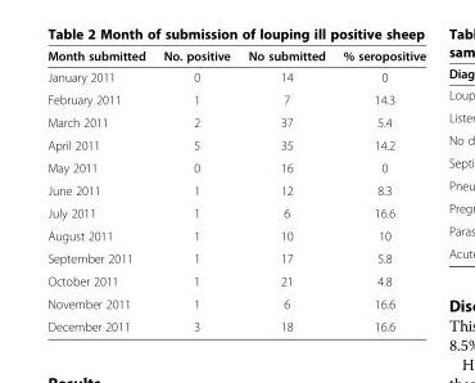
<table><thead><tr><td>Month submitted</td><td>No. positive</td><td>No submitted</td><td>% seropositive</td></tr></thead><tbody><tr><td>January 2011</td><td>0</td><td>14</td><td>0</td></tr><tr><td>February 2011</td><td>1</td><td>7</td><td>14.3</td></tr><tr><td>March 2011</td><td>2</td><td>37</td><td>5.4</td></tr><tr><td>April 2011</td><td>5</td><td>35</td><td>14.2</td></tr><tr><td>May 2011</td><td>0</td><td>16</td><td>0</td></tr><tr><td>June 2011</td><td>1</td><td>12</td><td>8.3</td></tr><tr><td>July 2011</td><td>1</td><td>6</td><td>16.6</td></tr><tr><td>August 2011</td><td>1</td><td>10</td><td>10</td></tr><tr><td>September 2011</td><td>1</td><td>17</td><td>5.8</td></tr><tr><td>October 2011</td><td>1</td><td>21</td><td>4.8</td></tr><tr><td>November 2011</td><td>1</td><td>6</td><td>16.6</td></tr><tr><td>December 2011</td><td>3</td><td>18</td><td>16.6</td></tr></tbody></table>